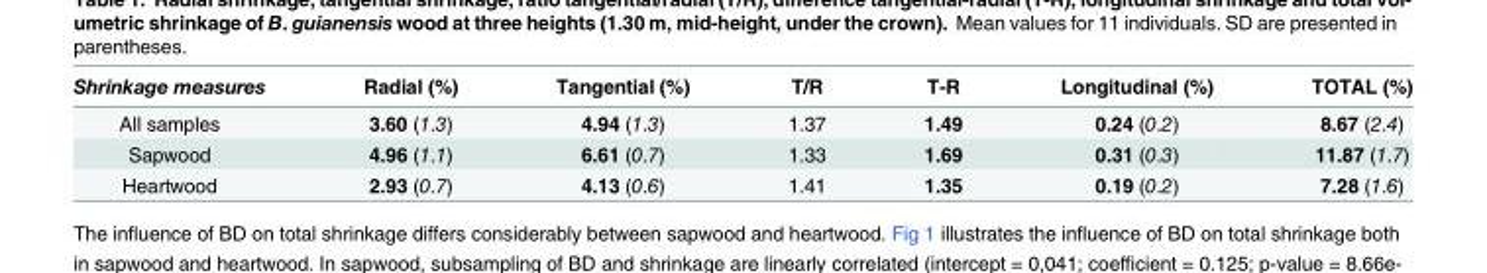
<table><thead><tr><td>Shrinkage measures</td><td>Radial (%)</td><td>Tangential (%)</td><td>T/R</td><td>T-R</td><td>Longitudinal (%)</td><td>TOTAL (%)</td></tr></thead><tbody><tr><td>All samples</td><td>3.60 (1.3)</td><td>4.94 (1.3)</td><td>1.37</td><td>1.49</td><td>0.24 (0.2)</td><td>8.67 (2.4)</td></tr><tr><td>Sapwood</td><td>4.96 (1.1)</td><td>6.61 (0.7)</td><td>1.33</td><td>1.69</td><td>0.31 (0.3)</td><td>11.87 (1.7)</td></tr><tr><td>Heartwood</td><td>2.93 (0.7)</td><td>4.13 (0.6)</td><td>1.41</td><td>1.35</td><td>0.19 (0.2)</td><td>7.28 (1.6)</td></tr></tbody></table>